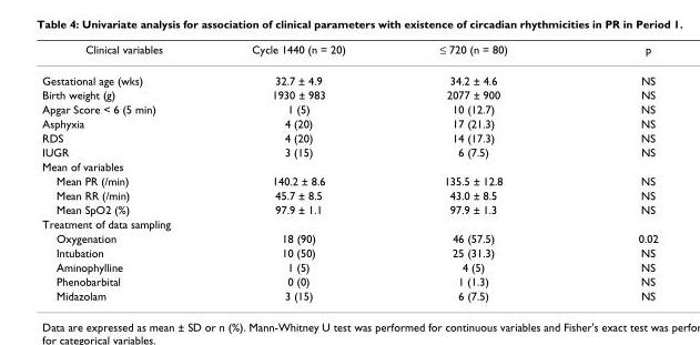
<table><thead><tr><td>Clinical variables</td><td>Cycle 1440 (n = 20)</td><td>≤ 720 (n = 80)</td><td>p</td></tr></thead><tbody><tr><td>Gestational age (wks)</td><td>32.7 ± 4.9</td><td>34.2 ± 4.6</td><td>NS</td></tr><tr><td>Birth weight (g)</td><td>1930 ± 983</td><td>2077 ± 900</td><td>NS</td></tr><tr><td>Apgar Score &lt; 6 (5 min)</td><td>1 (5)</td><td>10 (12.7)</td><td>NS</td></tr><tr><td>Asphyxia</td><td>4 (20)</td><td>17 (21.3)</td><td>NS</td></tr><tr><td>RDS</td><td>4 (20)</td><td>14 (17.3)</td><td>NS</td></tr><tr><td>IUGR</td><td>3 (15)</td><td>6 (7.5)</td><td>NS</td></tr><tr><td colspan="4">Mean of variables</td></tr><tr><td>Mean PR (/min)</td><td>140.2 ± 8.6</td><td>135.5 ± 12.8</td><td>NS</td></tr><tr><td>Mean RR (/min)</td><td>45.7 ± 8.5</td><td>43.0 ± 8.5</td><td>NS</td></tr><tr><td>Mean SpO2 (%)</td><td>97.9 ± 1.1</td><td>97.9 ± 1.3</td><td>NS</td></tr><tr><td colspan="4">Treatment of data sampling</td></tr><tr><td>Oxygenation</td><td>18 (90)</td><td>46 (57.5)</td><td>0.02</td></tr><tr><td>Intubation</td><td>10 (50)</td><td>25 (31.3)</td><td>NS</td></tr><tr><td>Aminophylline</td><td>1 (5)</td><td>4 (5)</td><td>NS</td></tr><tr><td>Phenobarbital</td><td>0 (0)</td><td>1 (1.3)</td><td>NS</td></tr><tr><td>Midazolam</td><td>3 (15)</td><td>6 (7.5)</td><td>NS</td></tr></tbody></table>